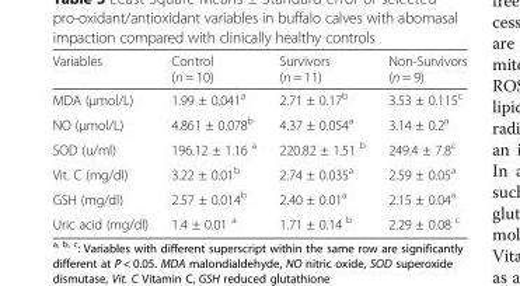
<table><thead><tr><td>Variables</td><td>Control (n = 10)</td><td>Survivors (n = 11)</td><td>Non-Survivors (n = 9)</td></tr></thead><tbody><tr><td>MDA (μmol/L)</td><td>1.99 ± 0.041<sup>a</sup></td><td>2.71 ± 0.17<sup>b</sup></td><td>3.53 ± 0.115<sup>c</sup></td></tr><tr><td>NO (μmol/L)</td><td>4.861 ± 0.078<sup>b</sup></td><td>4.37 ± 0.054<sup>a</sup></td><td>3.14 ± 0.2<sup>a</sup></td></tr><tr><td>SOD (u/ml)</td><td>196.12 ± 1.16 <sup>a</sup></td><td>220.82 ± 1.51 <sup>b</sup></td><td>249.4 ± 7.8<sup>c</sup></td></tr><tr><td>Vit. C (mg/dl)</td><td>3.22 ± 0.01<sup>b</sup></td><td>2.74 ± 0.035<sup>a</sup></td><td>2.59 ± 0.05<sup>a</sup></td></tr><tr><td>GSH (mg/dl)</td><td>2.57 ± 0.014<sup>b</sup></td><td>2.40 ± 0.01<sup>a</sup></td><td>2.15 ± 0.04<sup>a</sup></td></tr><tr><td>Uric acid (mg/dl)</td><td>1.4 ± 0.01 <sup>a</sup></td><td>1.71 ± 0.14 <sup>b</sup></td><td>2.29 ± 0.08 <sup>c</sup></td></tr></tbody></table>